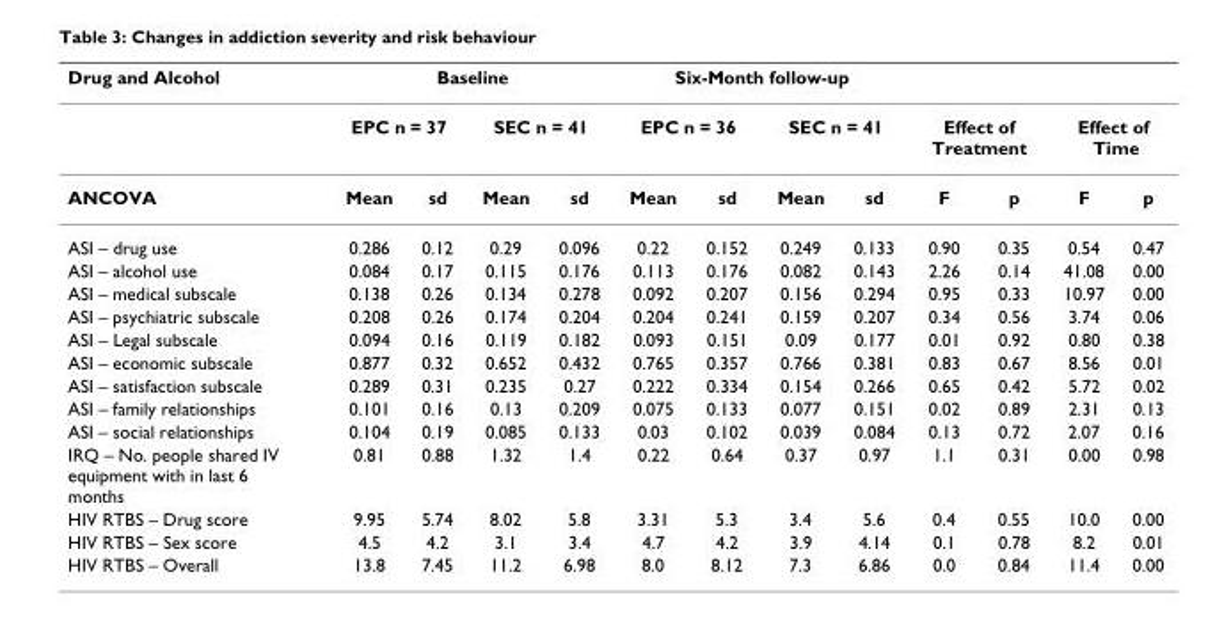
<table><thead><tr><td rowspan="3">Drug and Alcohol ANCOVA</td><td colspan="4">Baseline</td><td colspan="4">Six-Month follow-up</td><td></td><td></td><td></td><td></td></tr><tr><td colspan="2">EPC n = 37</td><td colspan="2">SEC n = 41</td><td colspan="2">EPC n = 36</td><td colspan="2">SEC n = 41</td><td colspan="2">Effect of Treatment</td><td colspan="2">Effect of Time</td></tr><tr><td>Mean</td><td>sd</td><td>Mean</td><td>sd</td><td>Mean</td><td>sd</td><td>Mean</td><td>sd</td><td>F</td><td>p</td><td>F</td><td>p</td></tr></thead><tbody><tr><td>ASI – drug use</td><td>0.286</td><td>0.12</td><td>0.29</td><td>0.096</td><td>0.22</td><td>0.152</td><td>0.249</td><td>0.133</td><td>0.90</td><td>0.35</td><td>0.54</td><td>0.47</td></tr><tr><td>ASI – alcohol use</td><td>0.084</td><td>0.17</td><td>0.115</td><td>0.176</td><td>0.113</td><td>0.176</td><td>0.082</td><td>0.143</td><td>2.26</td><td>0.14</td><td>41.08</td><td>0.00</td></tr><tr><td>ASI – medical subscale</td><td>0.138</td><td>0.26</td><td>0.134</td><td>0.278</td><td>0.092</td><td>0.207</td><td>0.156</td><td>0.294</td><td>0.95</td><td>0.33</td><td>10.97</td><td>0.00</td></tr><tr><td>ASI – psychiatric subscale</td><td>0.208</td><td>0.26</td><td>0.174</td><td>0.204</td><td>0.204</td><td>0.241</td><td>0.159</td><td>0.207</td><td>0.34</td><td>0.56</td><td>3.74</td><td>0.06</td></tr><tr><td>ASI – Legal subscale</td><td>0.094</td><td>0.16</td><td>0.119</td><td>0.182</td><td>0.093</td><td>0.151</td><td>0.09</td><td>0.177</td><td>0.01</td><td>0.92</td><td>0.80</td><td>0.38</td></tr><tr><td>ASI – economic subscale</td><td>0.877</td><td>0.32</td><td>0.652</td><td>0.432</td><td>0.765</td><td>0.357</td><td>0.766</td><td>0.381</td><td>0.83</td><td>0.67</td><td>8.56</td><td>0.01</td></tr><tr><td>ASI – satisfaction subscale</td><td>0.289</td><td>0.31</td><td>0.235</td><td>0.27</td><td>0.222</td><td>0.334</td><td>0.154</td><td>0.266</td><td>0.65</td><td>0.42</td><td>5.72</td><td>0.02</td></tr><tr><td>ASI – family relationships</td><td>0.101</td><td>0.16</td><td>0.13</td><td>0.209</td><td>0.075</td><td>0.133</td><td>0.077</td><td>0.151</td><td>0.02</td><td>0.89</td><td>2.31</td><td>0.13</td></tr><tr><td>ASI – social relationships</td><td>0.104</td><td>0.19</td><td>0.085</td><td>0.133</td><td>0.03</td><td>0.102</td><td>0.039</td><td>0.084</td><td>0.13</td><td>0.72</td><td>2.07</td><td>0.16</td></tr><tr><td>IRQ – No. people shared IV equipment with in last 6 months</td><td>0.81</td><td>0.88</td><td>1.32</td><td>1.4</td><td>0.22</td><td>0.64</td><td>0.37</td><td>0.97</td><td>1.1</td><td>0.31</td><td>0.00</td><td>0.98</td></tr><tr><td>HIV RTBS – Drug score</td><td>9.95</td><td>5.74</td><td>8.02</td><td>5.8</td><td>3.31</td><td>5.3</td><td>3.4</td><td>5.6</td><td>0.4</td><td>0.55</td><td>10.0</td><td>0.00</td></tr><tr><td>HIV RTBS – Sex score</td><td>4.5</td><td>4.2</td><td>3.1</td><td>3.4</td><td>4.7</td><td>4.2</td><td>3.9</td><td>4.14</td><td>0.1</td><td>0.78</td><td>8.2</td><td>0.01</td></tr><tr><td>HIV RTBS – Overall</td><td>13.8</td><td>7.45</td><td>11.2</td><td>6.98</td><td>8.0</td><td>8.12</td><td>7.3</td><td>6.86</td><td>0.0</td><td>0.84</td><td>11.4</td><td>0.00</td></tr></tbody></table>